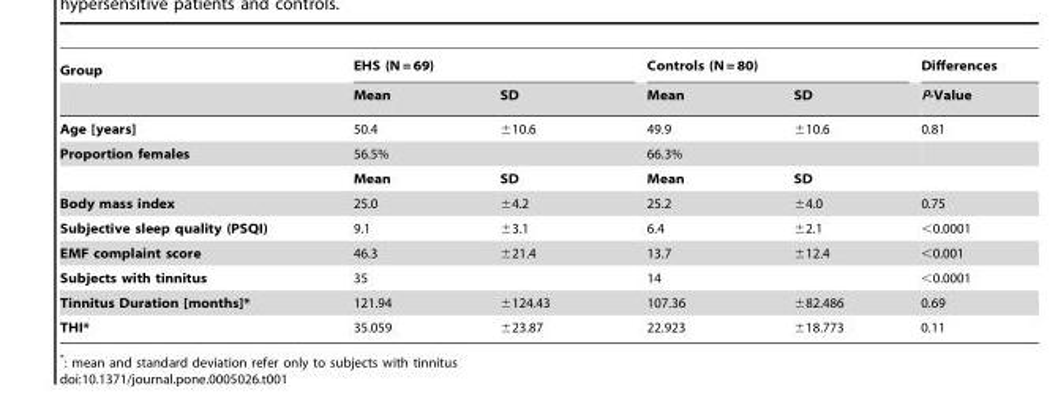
<table><thead><tr><td rowspan="2">Group</td><td colspan="2">EHS (N = 69)</td><td colspan="2">Controls (N = 80)</td><td rowspan="2">Differences P-Value</td></tr><tr><td>Mean</td><td>SD</td><td>Mean</td><td>SD</td></tr></thead><tbody><tr><td>Age [years]</td><td>50.4</td><td>±10.6</td><td>49.9</td><td>±10.6</td><td>0.81</td></tr><tr><td rowspan="2">Proportion females</td><td colspan="2">56.5%</td><td colspan="2">66.3%</td><td></td></tr><tr><td>Mean</td><td>SD</td><td>Mean</td><td>SD</td><td></td></tr><tr><td>Body mass index</td><td>25.0</td><td>±4.2</td><td>25.2</td><td>±4.0</td><td>0.75</td></tr><tr><td>Subjective sleep quality (PSQI)</td><td>9.1</td><td>±3.1</td><td>6.4</td><td>±2.1</td><td>&lt;0.0001</td></tr><tr><td>EMF complaint score</td><td>46.3</td><td>±21.4</td><td>13.7</td><td>±12.4</td><td>&lt;0.001</td></tr><tr><td>Subjects with tinnitus</td><td colspan="2">35</td><td colspan="2">14</td><td>&lt;0.0001</td></tr><tr><td>Tinnitus Duration [months]*</td><td>121.94</td><td>±124.43</td><td>107.36</td><td>±82.486</td><td>0.69</td></tr><tr><td>THI*</td><td>35.059</td><td>±23.87</td><td>22.923</td><td>±18.773</td><td>0.11</td></tr></tbody></table>